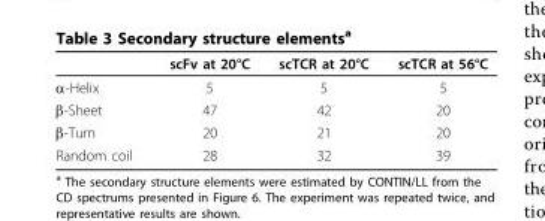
<table><thead><tr><td></td><td>scFv at 20°C</td><td>scTCR at 20°C</td><td>scTCR at 56°C</td></tr></thead><tbody><tr><td>α-Helix</td><td>5</td><td>5</td><td>5</td></tr><tr><td>β-Sheet</td><td>47</td><td>42</td><td>20</td></tr><tr><td>β-Turn</td><td>20</td><td>21</td><td>20</td></tr><tr><td>Random coil</td><td>28</td><td>32</td><td>39</td></tr></tbody></table>